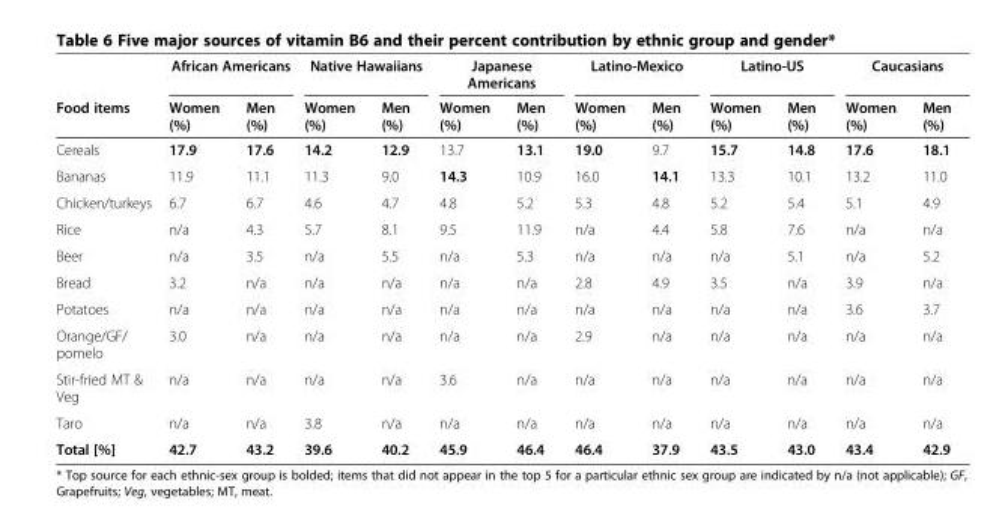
<table><thead><tr><td rowspan="2">Food items</td><td colspan="2">African Americans</td><td colspan="2">Native Hawaiians</td><td colspan="2">Japanese Americans</td><td colspan="2">Latino-Mexico</td><td colspan="2">Latino-US</td><td colspan="2">Caucasians</td></tr><tr><td>Women (%)</td><td>Men (%)</td><td>Women (%)</td><td>Men (%)</td><td>Women (%)</td><td>Men (%)</td><td>Women (%)</td><td>Men (%)</td><td>Women (%)</td><td>Men (%)</td><td>Women (%)</td><td>Men (%)</td></tr></thead><tbody><tr><td>Cereals</td><td>17.9</td><td>17.6</td><td>14.2</td><td>12.9</td><td>13.7</td><td>13.1</td><td>19.0</td><td>9.7</td><td>15.7</td><td>14.8</td><td>17.6</td><td>18.1</td></tr><tr><td>Bananas</td><td>11.9</td><td>11.1</td><td>11.3</td><td>9.0</td><td>14.3</td><td>10.9</td><td>16.0</td><td>14.1</td><td>13.3</td><td>10.1</td><td>13.2</td><td>11.0</td></tr><tr><td>Chicken/turkeys</td><td>6.7</td><td>6.7</td><td>4.6</td><td>4.7</td><td>4.8</td><td>5.2</td><td>5.3</td><td>4.8</td><td>5.2</td><td>5.4</td><td>5.1</td><td>4.9</td></tr><tr><td>Rice</td><td>n/a</td><td>4.3</td><td>5.7</td><td>8.1</td><td>9.5</td><td>11.9</td><td>n/a</td><td>4.4</td><td>5.8</td><td>7.6</td><td>n/a</td><td>n/a</td></tr><tr><td>Beer</td><td>n/a</td><td>3.5</td><td>n/a</td><td>5.5</td><td>n/a</td><td>5.3</td><td>n/a</td><td>n/a</td><td>n/a</td><td>5.1</td><td>n/a</td><td>5.2</td></tr><tr><td>Bread</td><td>3.2</td><td>n/a</td><td>n/a</td><td>n/a</td><td>n/a</td><td>n/a</td><td>2.8</td><td>4.9</td><td>3.5</td><td>n/a</td><td>3.9</td><td>n/a</td></tr><tr><td>Potatoes</td><td>n/a</td><td>n/a</td><td>n/a</td><td>n/a</td><td>n/a</td><td>n/a</td><td>n/a</td><td>n/a</td><td>n/a</td><td>n/a</td><td>3.6</td><td>3.7</td></tr><tr><td>Orange/GF/ pomelo</td><td>3.0</td><td>n/a</td><td>n/a</td><td>n/a</td><td>n/a</td><td>n/a</td><td>2.9</td><td>n/a</td><td>n/a</td><td>n/a</td><td>n/a</td><td>n/a</td></tr><tr><td>Stir-fried MT &amp; Veg</td><td>n/a</td><td>n/a</td><td>n/a</td><td>n/a</td><td>3.6</td><td>n/a</td><td>n/a</td><td>n/a</td><td>n/a</td><td>n/a</td><td>n/a</td><td>n/a</td></tr><tr><td>Taro</td><td>n/a</td><td>n/a</td><td>3.8</td><td>n/a</td><td>n/a</td><td>n/a</td><td>n/a</td><td>n/a</td><td>n/a</td><td>n/a</td><td>n/a</td><td>n/a</td></tr><tr><td>Total [%]</td><td>42.7</td><td>43.2</td><td>39.6</td><td>40.2</td><td>45.9</td><td>46.4</td><td>46.4</td><td>37.9</td><td>43.5</td><td>43.0</td><td>43.4</td><td>42.9</td></tr></tbody></table>